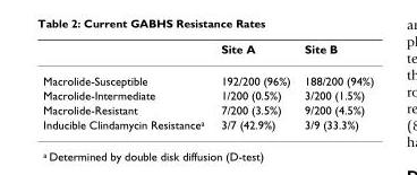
<table><thead><tr><td></td><td>Site A</td><td>Site B</td></tr></thead><tbody><tr><td>Macrolide-Susceptible</td><td>192/200 (96%)</td><td>188/200 (94%)</td></tr><tr><td>Macrolide-Intermediate</td><td>1/200 (0.5%)</td><td>3/200 (1.5%)</td></tr><tr><td>Macrolide-Resistant</td><td>7/200 (3.5%)</td><td>9/200 (4.5%)</td></tr><tr><td>Inducible Clindamycin Resistance<sup>a</sup></td><td>3/7 (42.9%)</td><td>3/9 (33.3%)</td></tr></tbody></table>